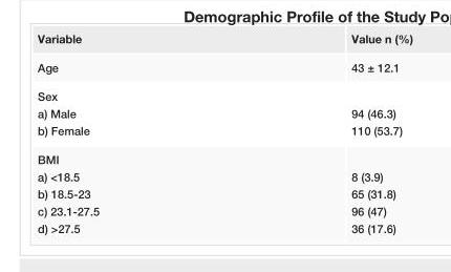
<table><tbody><tr><td>Variable</td><td>Value n (%)</td></tr><tr><td>Age</td><td>43 ± 12.1</td></tr><tr><td>Sex a) Male b) Female</td><td>94 (46.3) 110 (53.7)</td></tr><tr><td>BMI a) &lt;18.5 b) 18.5-23 c) 23.1-27.5 d) &gt;27.5</td><td>8 (3.9) 65 (31.8) 96 (47) 36 (17.6)</td></tr></tbody></table>